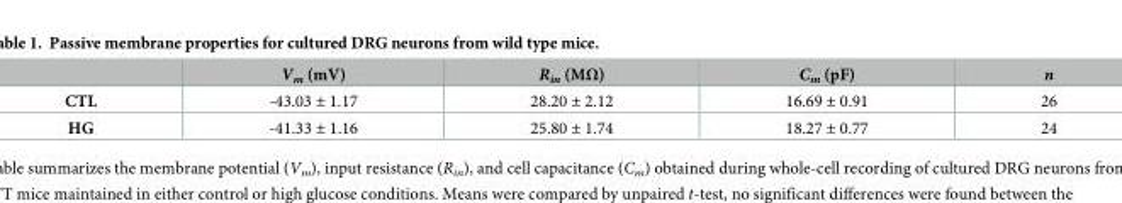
<table><thead><tr><td></td><td>V<sub>m</sub> (mV)</td><td>R<sub>in</sub> (MΩ)</td><td>C<sub>m</sub> (pF)</td><td>n</td></tr></thead><tbody><tr><td>CTL</td><td>-43.03 ± 1.17</td><td>28.20 ± 2.12</td><td>16.69 ± 0.91</td><td>26</td></tr><tr><td>HG</td><td>-41.33 ± 1.16</td><td>25.80 ± 1.74</td><td>18.27 ± 0.77</td><td>24</td></tr></tbody></table>